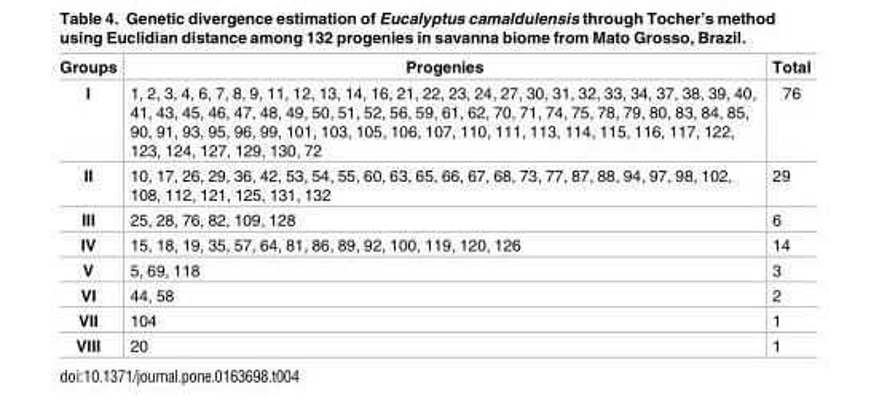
<table><thead><tr><td>Groups</td><td>Progenies</td><td>Total</td></tr></thead><tbody><tr><td>I</td><td>1, 2, 3, 4, 6, 7, 8, 9, 11, 12, 13, 14, 16, 21, 22, 23, 24, 27, 30, 31, 32, 33, 34, 37, 38, 39, 40, 41, 43, 45, 46, 47, 48, 49, 50, 51, 52, 56, 59, 61, 62, 70, 71, 74, 75, 78, 79, 80, 83, 84, 85, 90, 91, 93, 95, 96, 99, 101, 103, 105, 106, 107, 110, 111, 113, 114, 115, 116, 117, 122, 123, 124, 127, 129, 130, 72</td><td>76</td></tr><tr><td>II</td><td>10, 17, 26, 29, 36, 42, 53, 54, 55, 60, 63, 65, 66, 67, 68, 73, 77, 87, 88, 94, 97, 98, 102, 108, 112, 121, 125, 131, 132</td><td>29</td></tr><tr><td>III</td><td>25, 28, 76, 82, 109, 128</td><td>6</td></tr><tr><td>IV</td><td>15, 18, 19, 35, 57, 64, 81, 86, 89, 92, 100, 119, 120, 126</td><td>14</td></tr><tr><td>V</td><td>5, 69, 118</td><td>3</td></tr><tr><td>VI</td><td>44, 58</td><td>2</td></tr><tr><td>VII</td><td>104</td><td>1</td></tr><tr><td>VIII</td><td>20</td><td>1</td></tr></tbody></table>